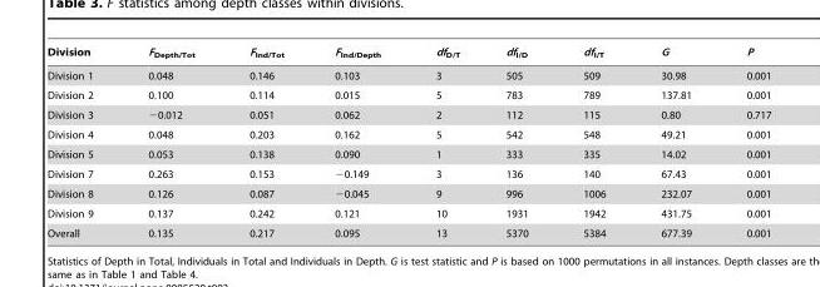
<table><thead><tr><td>Division</td><td>F<sub>Depth/Tot</sub></td><td>F<sub>Ind/Tot</sub></td><td>F<sub>Ind/Depth</sub></td><td>df<sub>D/T</sub></td><td>df<sub>I/D</sub></td><td>df<sub>I/T</sub></td><td>G</td><td>P</td></tr></thead><tbody><tr><td>Division 1</td><td>0.048</td><td>0.146</td><td>0.103</td><td>3</td><td>505</td><td>509</td><td>30.98</td><td>0.001</td></tr><tr><td>Division 2</td><td>0.100</td><td>0.114</td><td>0.015</td><td>5</td><td>783</td><td>789</td><td>137.81</td><td>0.001</td></tr><tr><td>Division 3</td><td>−0.012</td><td>0.051</td><td>0.062</td><td>2</td><td>112</td><td>115</td><td>0.80</td><td>0.717</td></tr><tr><td>Division 4</td><td>0.048</td><td>0.203</td><td>0.162</td><td>5</td><td>542</td><td>548</td><td>49.21</td><td>0.001</td></tr><tr><td>Division 5</td><td>0.053</td><td>0.138</td><td>0.090</td><td>1</td><td>333</td><td>335</td><td>14.02</td><td>0.001</td></tr><tr><td>Division 7</td><td>0.263</td><td>0.153</td><td>−0.149</td><td>3</td><td>136</td><td>140</td><td>67.43</td><td>0.001</td></tr><tr><td>Division 8</td><td>0.126</td><td>0.087</td><td>−0.045</td><td>9</td><td>996</td><td>1006</td><td>232.07</td><td>0.001</td></tr><tr><td>Division 9</td><td>0.137</td><td>0.242</td><td>0.121</td><td>10</td><td>1931</td><td>1942</td><td>431.75</td><td>0.001</td></tr><tr><td>Overall</td><td>0.135</td><td>0.217</td><td>0.095</td><td>13</td><td>5370</td><td>5384</td><td>677.39</td><td>0.001</td></tr></tbody></table>